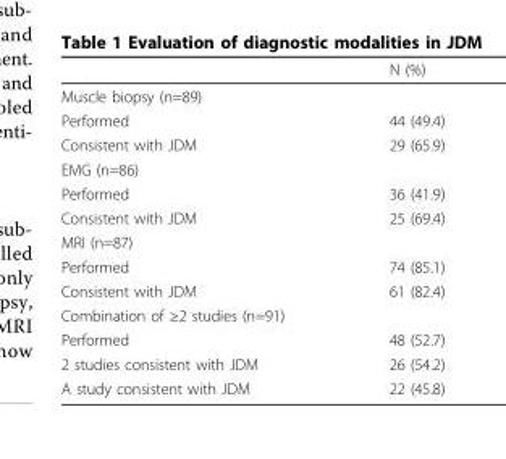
<table><thead><tr><td></td><td>N (%)</td></tr></thead><tbody><tr><td colspan="2">Muscle biopsy (n=89)</td></tr><tr><td>Performed</td><td>44 (49.4)</td></tr><tr><td>Consistent with JDM</td><td>29 (65.9)</td></tr><tr><td colspan="2">EMG (n=86)</td></tr><tr><td>Performed</td><td>36 (41.9)</td></tr><tr><td>Consistent with JDM</td><td>25 (69.4)</td></tr><tr><td colspan="2">MRI (n=87)</td></tr><tr><td>Performed</td><td>74 (85.1)</td></tr><tr><td>Consistent with JDM</td><td>61 (82.4)</td></tr><tr><td colspan="2">Combination of ≥2 studies (n=91)</td></tr><tr><td>Performed</td><td>48 (52.7)</td></tr><tr><td>2 studies consistent with JDM</td><td>26 (54.2)</td></tr><tr><td>A study consistent with JDM</td><td>22 (45.8)</td></tr></tbody></table>